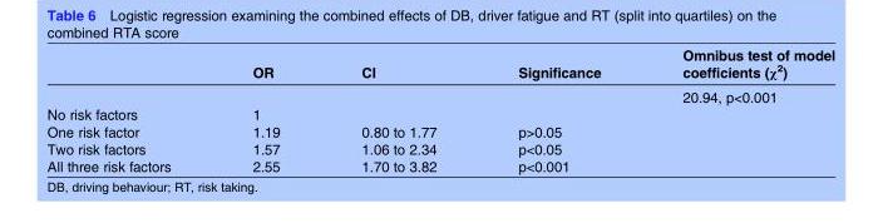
<table><thead><tr><td></td><td>OR</td><td>CI</td><td>Significance</td><td>Omnibus test of model coefficients (χ<sup>2</sup>)</td></tr></thead><tbody><tr><td></td><td></td><td></td><td></td><td>20.94, p&lt;0.001</td></tr><tr><td>No risk factors</td><td>1</td><td></td><td></td><td></td></tr><tr><td>One risk factor</td><td>1.19</td><td>0.80 to 1.77</td><td>p&gt;0.05</td><td></td></tr><tr><td>Two risk factors</td><td>1.57</td><td>1.06 to 2.34</td><td>p&lt;0.05</td><td></td></tr><tr><td>All three risk factors</td><td>2.55</td><td>1.70 to 3.82</td><td>p&lt;0.001</td><td></td></tr></tbody></table>